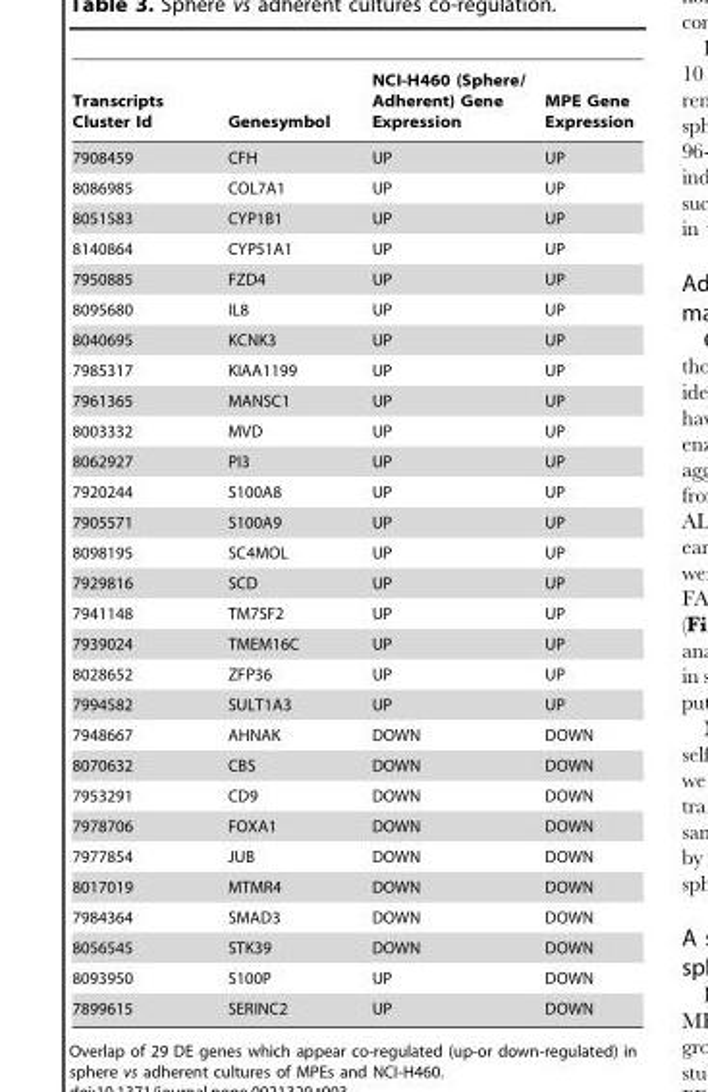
<table><thead><tr><td>Transcripts Cluster Id</td><td>Genesymbol</td><td>NCI-H460 (Sphere/ Adherent) Gene Expression</td><td>MPE Gene Expression</td></tr></thead><tbody><tr><td>7908459</td><td>CFH</td><td>UP</td><td>UP</td></tr><tr><td>8086985</td><td>COL7A1</td><td>UP</td><td>UP</td></tr><tr><td>8051583</td><td>CYP1B1</td><td>UP</td><td>UP</td></tr><tr><td>8140864</td><td>CYP51A1</td><td>UP</td><td>UP</td></tr><tr><td>7950885</td><td>FZD4</td><td>UP</td><td>UP</td></tr><tr><td>8095680</td><td>IL8</td><td>UP</td><td>UP</td></tr><tr><td>8040695</td><td>KCNK3</td><td>UP</td><td>UP</td></tr><tr><td>7985317</td><td>KIAA1199</td><td>UP</td><td>UP</td></tr><tr><td>7961365</td><td>MANSC1</td><td>UP</td><td>UP</td></tr><tr><td>8003332</td><td>MVD</td><td>UP</td><td>UP</td></tr><tr><td>8062927</td><td>PI3</td><td>UP</td><td>UP</td></tr><tr><td>7920244</td><td>S100A8</td><td>UP</td><td>UP</td></tr><tr><td>7905571</td><td>S100A9</td><td>UP</td><td>UP</td></tr><tr><td>8098195</td><td>SC4MOL</td><td>UP</td><td>UP</td></tr><tr><td>7929816</td><td>SCD</td><td>UP</td><td>UP</td></tr><tr><td>7941148</td><td>TM7SF2</td><td>UP</td><td>UP</td></tr><tr><td>7939024</td><td>TMEM16C</td><td>UP</td><td>UP</td></tr><tr><td>8028652</td><td>ZFP36</td><td>UP</td><td>UP</td></tr><tr><td>7994582</td><td>SULT1A3</td><td>UP</td><td>UP</td></tr><tr><td>7948667</td><td>AHNAK</td><td>DOWN</td><td>DOWN</td></tr><tr><td>8070632</td><td>CBS</td><td>DOWN</td><td>DOWN</td></tr><tr><td>7953291</td><td>CD9</td><td>DOWN</td><td>DOWN</td></tr><tr><td>7978706</td><td>FOXA1</td><td>DOWN</td><td>DOWN</td></tr><tr><td>7977854</td><td>JUB</td><td>DOWN</td><td>DOWN</td></tr><tr><td>8017019</td><td>MTMR4</td><td>DOWN</td><td>DOWN</td></tr><tr><td>7984364</td><td>SMAD3</td><td>DOWN</td><td>DOWN</td></tr><tr><td>8056545</td><td>STK39</td><td>DOWN</td><td>DOWN</td></tr><tr><td>8093950</td><td>S100P</td><td>UP</td><td>DOWN</td></tr><tr><td>7899615</td><td>SERINC2</td><td>UP</td><td>DOWN</td></tr></tbody></table>